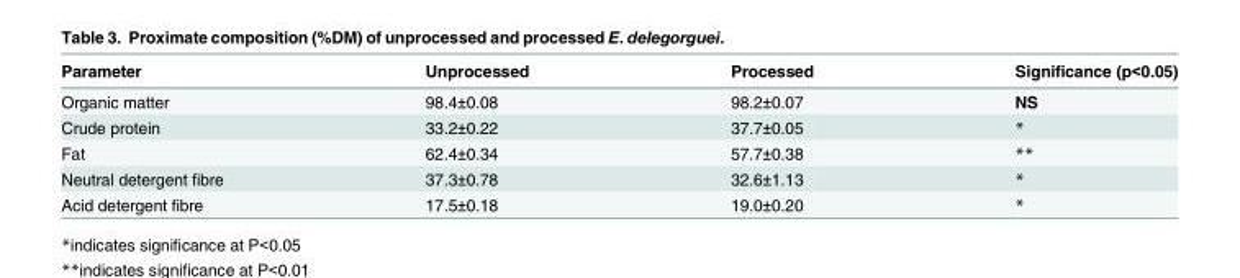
<table><thead><tr><td>Parameter</td><td>Unprocessed</td><td>Processed</td><td>Significance (p&lt;0.05)</td></tr></thead><tbody><tr><td>Organic matter</td><td>98.4±0.08</td><td>98.2±0.07</td><td>NS</td></tr><tr><td>Crude protein</td><td>33.2±0.22</td><td>37.7±0.05</td><td>*</td></tr><tr><td>Fat</td><td>62.4±0.34</td><td>57.7±0.38</td><td>**</td></tr><tr><td>Neutral detergent fibre</td><td>37.3±0.78</td><td>32.6±1.13</td><td>*</td></tr><tr><td>Acid detergent fibre</td><td>17.5±0.18</td><td>19.0±0.20</td><td>*</td></tr></tbody></table>